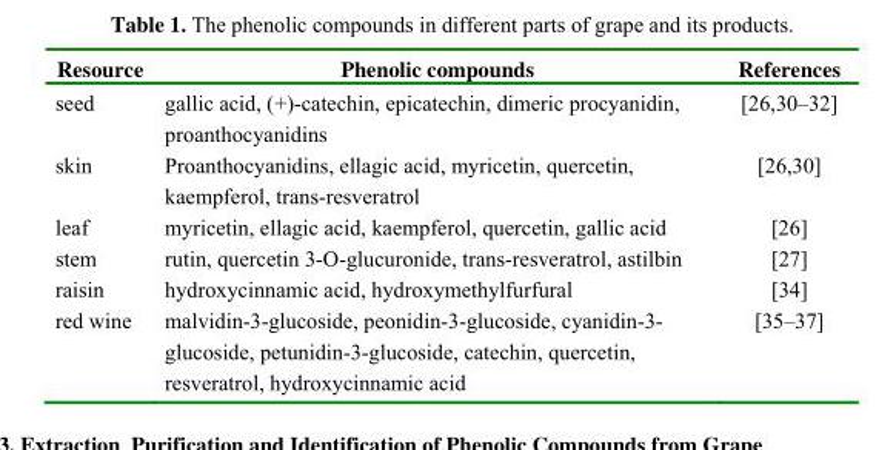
<table><thead><tr><td>Resource</td><td>Phenolic compounds</td><td>References</td></tr></thead><tbody><tr><td>seed</td><td>gallic acid, (+)-catechin, epicatechin, dimeric procyanidin, proanthocyanidins</td><td>[26,30–32]</td></tr><tr><td>skin</td><td>Proanthocyanidins, ellagic acid, myricetin, quercetin, kaempferol, trans-resveratrol</td><td>[26,30]</td></tr><tr><td>leaf</td><td>myricetin, ellagic acid, kaempferol, quercetin, gallic acid</td><td>[26]</td></tr><tr><td>stem</td><td>rutin, quercetin 3-O-glucuronide, trans-resveratrol, astilbin</td><td>[27]</td></tr><tr><td>raisin</td><td>hydroxycinnamic acid, hydroxymethylfurfural</td><td>[34]</td></tr><tr><td>red wine</td><td>malvidin-3-glucoside, peonidin-3-glucoside, cyanidin-3- glucoside, petunidin-3-glucoside, catechin, quercetin, resveratrol, hydroxycinnamic acid</td><td>[35–37]</td></tr></tbody></table>